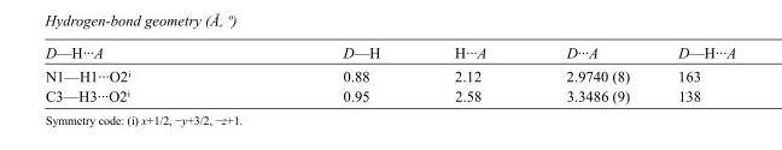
<table><tbody><tr><td>D—H···A</td><td>D—H</td><td>H···A</td><td>D···A</td><td>D—H···A</td></tr><tr><td>N1—H1···O2<sup>i</sup></td><td>0.88</td><td>2.12</td><td>2.9740 (8)</td><td>163</td></tr><tr><td>C3—H3···O2<sup>i</sup></td><td>0.95</td><td>2.58</td><td>3.3486 (9)</td><td>138</td></tr></tbody></table>